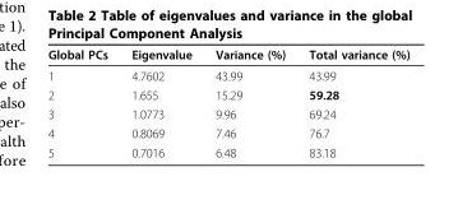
<table><thead><tr><td>Global PCs</td><td>Eigenvalue</td><td>Variance (%)</td><td>Total variance (%)</td></tr></thead><tbody><tr><td>1</td><td>4.7602</td><td>43.99</td><td>43.99</td></tr><tr><td>2</td><td>1.655</td><td>15.29</td><td>59.28</td></tr><tr><td>3</td><td>1.0773</td><td>9.96</td><td>69.24</td></tr><tr><td>4</td><td>0.8069</td><td>7.46</td><td>76.7</td></tr><tr><td>5</td><td>0.7016</td><td>6.48</td><td>83.18</td></tr></tbody></table>